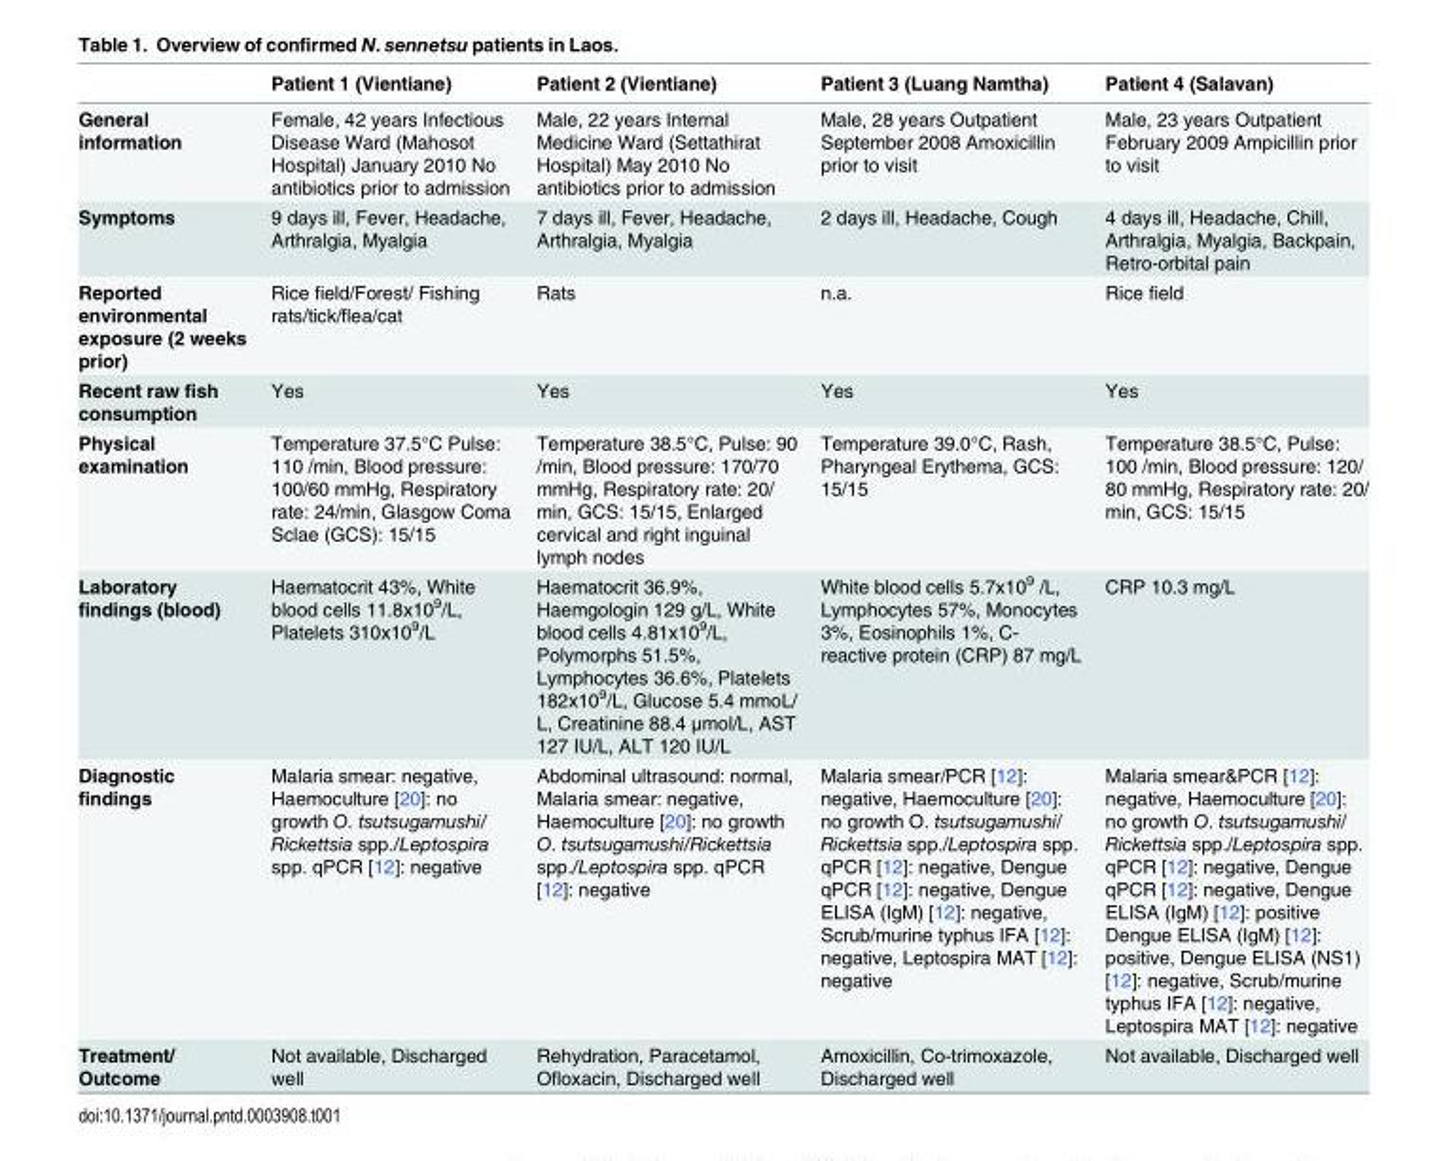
<table><thead><tr><td></td><td>Patient 1 (Vientiane)</td><td>Patient 2 (Vientiane)</td><td>Patient 3 (Luang Namtha)</td><td>Patient 4 (Salavan)</td></tr></thead><tbody><tr><td>General information</td><td>Female, 42 years Infectious Disease Ward (Mahosot Hospital) January 2010 No antibiotics prior to admission</td><td>Male, 22 years Internal Medicine Ward (Settathirat Hospital) May 2010 No antibiotics prior to admission</td><td>Male, 28 years Outpatient September 2008 Amoxicillin prior to visit</td><td>Male, 23 years Outpatient February 2009 Ampicillin prior to visit</td></tr><tr><td>Symptoms</td><td>9 days ill, Fever, Headache, Arthralgia, Myalgia</td><td>7 days ill, Fever, Headache, Arthralgia, Myalgia</td><td>2 days ill, Headache, Cough</td><td>4 days ill, Headache, Chill, Arthralgia, Myalgia, Backpain, Retro-orbital pain</td></tr><tr><td>Reported environmental exposure (2 weeks prior)</td><td>Rice field/Forest/ Fishing rats/tick/flea/cat</td><td>Rats</td><td>n.a.</td><td>Rice field</td></tr><tr><td>Recent raw fish consumption</td><td>Yes</td><td>Yes</td><td>Yes</td><td>Yes</td></tr><tr><td>Physical examination</td><td>Temperature 37.5°C Pulse: 110 /min, Blood pressure: 100/60 mmHg, Respiratory rate: 24/min, Glasgow Coma Sclae (GCS): 15/15</td><td>Temperature 38.5°C, Pulse: 90 /min, Blood pressure: 170/70 mmHg, Respiratory rate: 20/ min, GCS: 15/15, Enlarged cervical and right inguinal lymph nodes</td><td>Temperature 39.0°C, Rash, Pharyngeal Erythema, GCS: 15/15</td><td>Temperature 38.5°C, Pulse: 100 /min, Blood pressure: 120/ 80 mmHg, Respiratory rate: 20/ min, GCS: 15/15</td></tr><tr><td>Laboratory findings (blood)</td><td>Haematocrit 43%, White blood cells 11.8x10<sup>9</sup>/L, Platelets 310x10<sup>9</sup>/L</td><td>Haematocrit 36.9%, Haemgologin 129 g/L, White blood cells 4.81x10<sup>9</sup>/L, Polymorphs 51.5%, Lymphocytes 36.6%, Platelets 182x10<sup>9</sup>/L, Glucose 5.4 mmoL/ L, Creatinine 88.4 μmol/L, AST 127 IU/L, ALT 120 IU/L</td><td>White blood cells 5.7x10<sup>9</sup> /L, Lymphocytes 57%, Monocytes 3%, Eosinophils 1%, C- reactive protein (CRP) 87 mg/L</td><td>CRP 10.3 mg/L</td></tr><tr><td>Diagnostic findings</td><td>Malaria smear: negative, Haemoculture [20]: no growth O. tsutsugamushi/ Rickettsia spp./Leptospira spp. qPCR [12]: negative</td><td>Abdominal ultrasound: normal, Malaria smear: negative, Haemoculture [20]: no growth O. tsutsugamushi/Rickettsia spp./Leptospira spp. qPCR [12]: negative</td><td>Malaria smear/PCR [12]: negative, Haemoculture [20]: no growth O. tsutsugamushi/ Rickettsia spp./Leptospira spp. qPCR [12]: negative, Dengue qPCR [12]: negative, Dengue ELISA (IgM) [12]: negative, Scrub/murine typhus IFA [12]: negative, Leptospira MAT [12]: negative</td><td>Malaria smear&amp;PCR [12]: negative, Haemoculture [20]: no growth O. tsutsugamushi/ Rickettsia spp./Leptospira spp. qPCR [12]: negative, Dengue qPCR [12]: negative, Dengue ELISA (IgM) [12]: positive Dengue ELISA (IgM) [12]: positive, Dengue ELISA (NS1) [12]: negative, Scrub/murine typhus IFA [12]: negative, Leptospira MAT [12]: negative</td></tr><tr><td>Treatment/ Outcome</td><td>Not available, Discharged well</td><td>Rehydration, Paracetamol, Ofloxacin, Discharged well</td><td>Amoxicillin, Co-trimoxazole, Discharged well</td><td>Not available, Discharged well</td></tr></tbody></table>